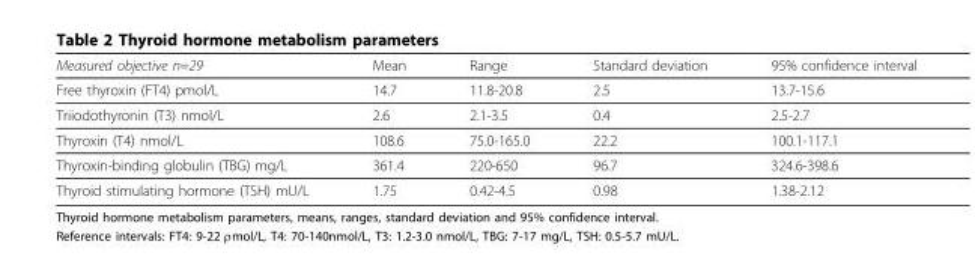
<table><thead><tr><td>Measured objective n=29</td><td>Mean</td><td>Range</td><td>Standard deviation</td><td>95% confidence interval</td></tr></thead><tbody><tr><td>Free thyroxin (FT4) pmol/L</td><td>14.7</td><td>11.8-20.8</td><td>2.5</td><td>13.7-15.6</td></tr><tr><td>Triiodothyronin (T3) nmol/L</td><td>2.6</td><td>2.1-3.5</td><td>0.4</td><td>2.5-2.7</td></tr><tr><td>Thyroxin (T4) nmol/L</td><td>108.6</td><td>75.0-165.0</td><td>22.2</td><td>100.1-117.1</td></tr><tr><td>Thyroxin-binding globulin (TBG) mg/L</td><td>361.4</td><td>220-650</td><td>96.7</td><td>324.6-398.6</td></tr><tr><td>Thyroid stimulating hormone (TSH) mU/L</td><td>1.75</td><td>0.42-4.5</td><td>0.98</td><td>1.38-2.12</td></tr></tbody></table>